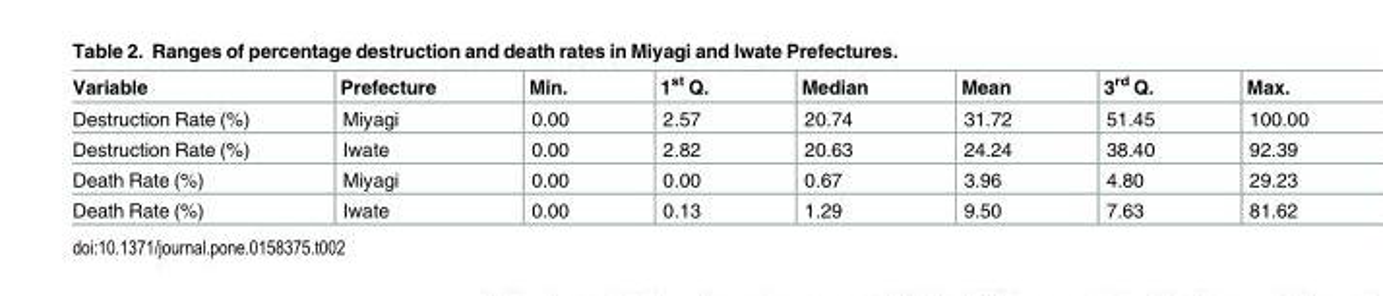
<table><thead><tr><td>Variable</td><td>Prefecture</td><td>Min.</td><td>1<sup>st</sup> Q.</td><td>Median</td><td>Mean</td><td>3<sup>rd</sup> Q.</td><td>Max.</td></tr></thead><tbody><tr><td>Destruction Rate (%)</td><td>Miyagi</td><td>0.00</td><td>2.57</td><td>20.74</td><td>31.72</td><td>51.45</td><td>100.00</td></tr><tr><td>Destruction Rate (%)</td><td>Iwate</td><td>0.00</td><td>2.82</td><td>20.63</td><td>24.24</td><td>38.40</td><td>92.39</td></tr><tr><td>Death Rate (%)</td><td>Miyagi</td><td>0.00</td><td>0.00</td><td>0.67</td><td>3.96</td><td>4.80</td><td>29.23</td></tr><tr><td>Death Rate (%)</td><td>Iwate</td><td>0.00</td><td>0.13</td><td>1.29</td><td>9.50</td><td>7.63</td><td>81.62</td></tr></tbody></table>